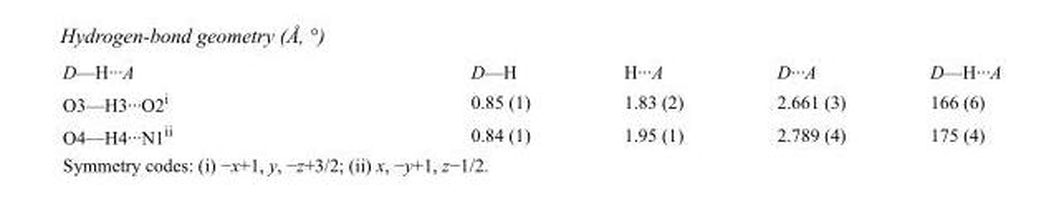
<table><tbody><tr><td>D—H···A</td><td>D—H</td><td>H···A</td><td>D···A</td><td>D—H···A</td></tr><tr><td>O3—H3···O2<sup>i</sup></td><td>0.85 (1)</td><td>1.83 (2)</td><td>2.661 (3)</td><td>166 (6)</td></tr><tr><td>O4—H4···N1<sup>ii</sup></td><td>0.84 (1)</td><td>1.95 (1)</td><td>2.789 (4)</td><td>175 (4)</td></tr></tbody></table>